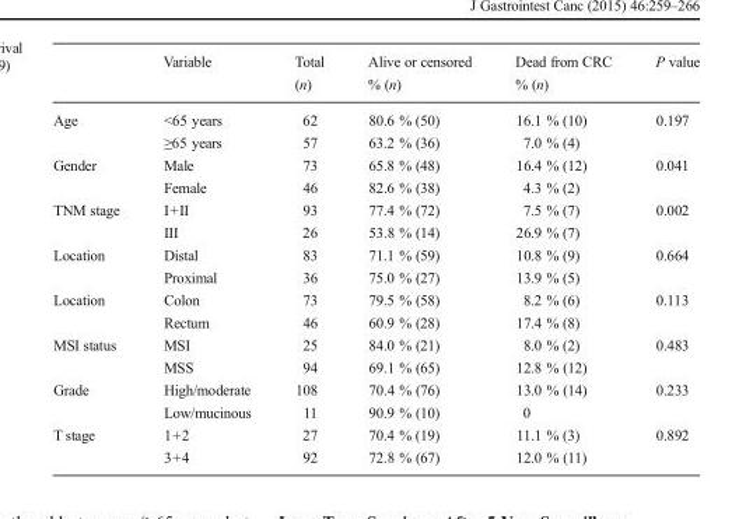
<table><thead><tr><td></td><td>Variable</td><td>Total (n)</td><td>Alive or censored % (n)</td><td>Dead from CRC % (n)</td><td>P value</td></tr></thead><tbody><tr><td rowspan="2">Age</td><td>&lt;65 years</td><td>62</td><td>80.6 % (50)</td><td>16.1 % (10)</td><td>0.197</td></tr><tr><td>≥65 years</td><td>57</td><td>63.2 % (36)</td><td>7.0 % (4)</td><td></td></tr><tr><td rowspan="2">Gender</td><td>Male</td><td>73</td><td>65.8 % (48)</td><td>16.4 % (12)</td><td>0.041</td></tr><tr><td>Female</td><td>46</td><td>82.6 % (38)</td><td>4.3 % (2)</td><td></td></tr><tr><td rowspan="2">TNM stage</td><td>I+II</td><td>93</td><td>77.4 % (72)</td><td>7.5 % (7)</td><td>0.002</td></tr><tr><td>III</td><td>26</td><td>53.8 % (14)</td><td>26.9 % (7)</td><td></td></tr><tr><td rowspan="2">Location</td><td>Distal</td><td>83</td><td>71.1 % (59)</td><td>10.8 % (9)</td><td>0.664</td></tr><tr><td>Proximal</td><td>36</td><td>75.0 % (27)</td><td>13.9 % (5)</td><td></td></tr><tr><td rowspan="2">Location</td><td>Colon</td><td>73</td><td>79.5 % (58)</td><td>8.2 % (6)</td><td>0.113</td></tr><tr><td>Rectum</td><td>46</td><td>60.9 % (28)</td><td>17.4 % (8)</td><td></td></tr><tr><td rowspan="2">MSI status</td><td>MSI</td><td>25</td><td>84.0 % (21)</td><td>8.0 % (2)</td><td>0.483</td></tr><tr><td>MSS</td><td>94</td><td>69.1 % (65)</td><td>12.8 % (12)</td><td></td></tr><tr><td rowspan="2">Grade</td><td>High/moderate</td><td>108</td><td>70.4 % (76)</td><td>13.0 % (14)</td><td>0.233</td></tr><tr><td>Low/mucinous</td><td>11</td><td>90.9 % (10)</td><td>0</td><td></td></tr><tr><td rowspan="2">T stage</td><td>1+2</td><td>27</td><td>70.4 % (19)</td><td>11.1 % (3)</td><td>0.892</td></tr><tr><td>3+4</td><td>92</td><td>72.8 % (67)</td><td>12.0 % (11)</td><td></td></tr></tbody></table>